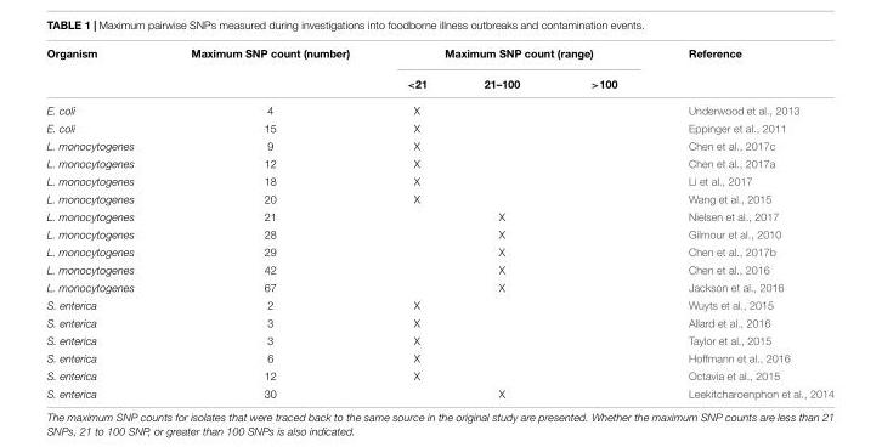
<table><thead><tr><td rowspan="2">Organism</td><td rowspan="2">Maximum SNP count (number)</td><td colspan="3">Maximum SNP count (range)</td><td rowspan="2">Reference</td></tr><tr><td>&lt;21</td><td>21–100</td><td>&gt;100</td></tr></thead><tbody><tr><td>E. coli</td><td>4</td><td>X</td><td></td><td></td><td>Underwood et al., 2013</td></tr><tr><td>E. coli</td><td>15</td><td>X</td><td></td><td></td><td>Eppinger et al., 2011</td></tr><tr><td>L. monocytogenes</td><td>9</td><td>X</td><td></td><td></td><td>Chen et al., 2017c</td></tr><tr><td>L. monocytogenes</td><td>12</td><td>X</td><td></td><td></td><td>Chen et al., 2017a</td></tr><tr><td>L. monocytogenes</td><td>18</td><td>X</td><td></td><td></td><td>Li et al., 2017</td></tr><tr><td>L. monocytogenes</td><td>20</td><td>X</td><td></td><td></td><td>Wang et al., 2015</td></tr><tr><td>L. monocytogenes</td><td>21</td><td></td><td>X</td><td></td><td>Nielsen et al., 2017</td></tr><tr><td>L. monocytogenes</td><td>28</td><td></td><td>X</td><td></td><td>Gilmour et al., 2010</td></tr><tr><td>L. monocytogenes</td><td>29</td><td></td><td>X</td><td></td><td>Chen et al., 2017b</td></tr><tr><td>L. monocytogenes</td><td>42</td><td></td><td>X</td><td></td><td>Chen et al., 2016</td></tr><tr><td>L. monocytogenes</td><td>67</td><td></td><td>X</td><td></td><td>Jackson et al., 2016</td></tr><tr><td>S. enterica</td><td>2</td><td>X</td><td></td><td></td><td>Wuyts et al., 2015</td></tr><tr><td>S. enterica</td><td>3</td><td>X</td><td></td><td></td><td>Allard et al., 2016</td></tr><tr><td>S. enterica</td><td>3</td><td>X</td><td></td><td></td><td>Taylor et al., 2015</td></tr><tr><td>S. enterica</td><td>6</td><td>X</td><td></td><td></td><td>Hoffmann et al., 2016</td></tr><tr><td>S. enterica</td><td>12</td><td>X</td><td></td><td></td><td>Octavia et al., 2015</td></tr><tr><td>S. enterica</td><td>30</td><td></td><td>X</td><td></td><td>Leekitcharoenphon et al., 2014</td></tr></tbody></table>